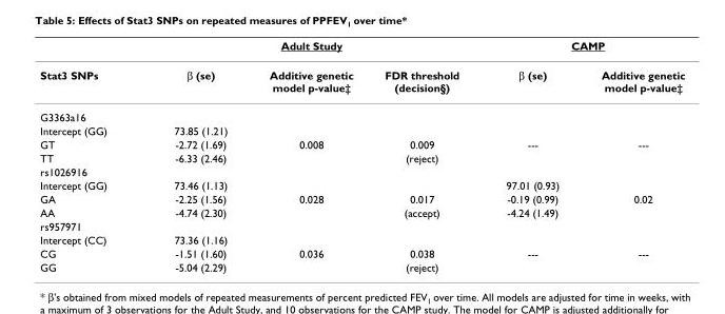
<table><thead><tr><td rowspan="2">Stat3 SNPs</td><td colspan="3">Adult Study</td><td colspan="2">CAMP</td></tr><tr><td>β (se)</td><td>Additive genetic model p-value‡</td><td>FDR threshold (decision§)</td><td>β (se)</td><td>Additive genetic model p-value‡</td></tr></thead><tbody><tr><td colspan="6">G3363a16</td></tr><tr><td>Intercept (GG)</td><td>73.85 (1.21)</td><td></td><td></td><td></td><td></td></tr><tr><td>GT</td><td>-2.72 (1.69)</td><td>0.008</td><td>0.009</td><td>---</td><td>---</td></tr><tr><td>TT</td><td>-6.33 (2.46)</td><td></td><td>(reject)</td><td></td><td></td></tr><tr><td colspan="6">rs1026916</td></tr><tr><td>Intercept (GG)</td><td>73.46 (1.13)</td><td></td><td></td><td>97.01 (0.93)</td><td></td></tr><tr><td>GA</td><td>-2.25 (1.56)</td><td>0.028</td><td>0.017</td><td>-0.19 (0.99)</td><td>0.02</td></tr><tr><td>AA</td><td>-4.74 (2.30)</td><td></td><td>(accept)</td><td>-4.24 (1.49)</td><td></td></tr><tr><td colspan="6">rs957971</td></tr><tr><td>Intercept (CC)</td><td>73.36 (1.16)</td><td></td><td></td><td></td><td></td></tr><tr><td>CG</td><td>-1.51 (1.60)</td><td>0.036</td><td>0.038</td><td>---</td><td>---</td></tr><tr><td>GG</td><td>-5.04 (2.29)</td><td></td><td>(reject)</td><td></td><td></td></tr></tbody></table>